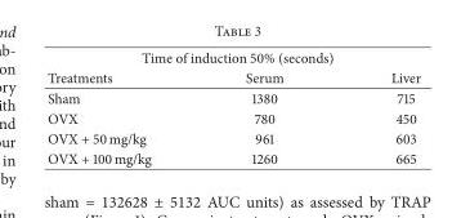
<table><thead><tr><td colspan="3">Time of induction 50% (seconds)</td></tr><tr><td>Treatments</td><td>Serum</td><td>Liver</td></tr></thead><tbody><tr><td>Sham</td><td>1380</td><td>715</td></tr><tr><td>OVX</td><td>780</td><td>450</td></tr><tr><td>OVX + 50 mg/kg</td><td>961</td><td>603</td></tr><tr><td>OVX + 100 mg/kg</td><td>1260</td><td>665</td></tr></tbody></table>